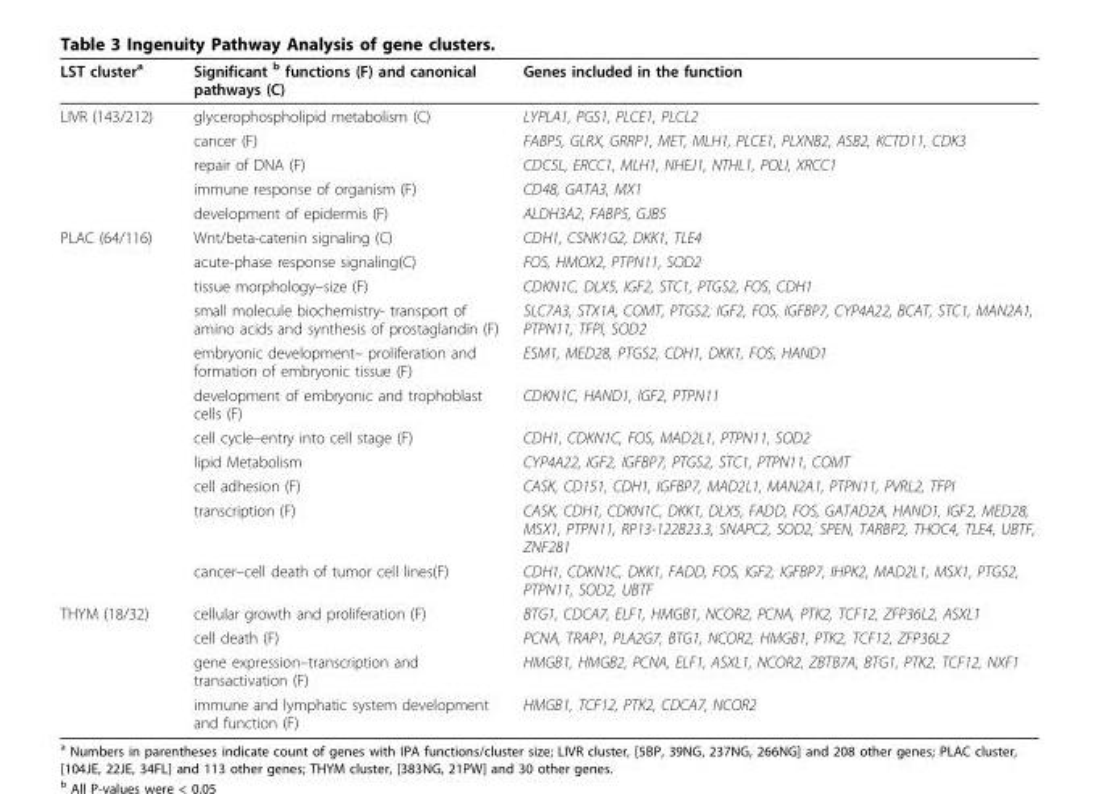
<table><thead><tr><td>LST cluster<sup>a</sup></td><td>Significant <sup>b</sup> functions (F) and canonical pathways (C)</td><td>Genes included in the function</td></tr></thead><tbody><tr><td rowspan="5">LIVR (143/212)</td><td>glycerophospholipid metabolism (C)</td><td>LYPLA1, PGS1, PLCE1, PLCL2</td></tr><tr><td>cancer (F)</td><td>FABP5, GLRX, GRRP1, MET, MLH1, PLCE1, PLXNB2, ASB2, KCTD11, CDK3</td></tr><tr><td>repair of DNA (F)</td><td>CDC5L, ERCC1, MLH1, NHEJ1, NTHL1, POLI, XRCC1</td></tr><tr><td>immune response of organism (F)</td><td>CD48, GATA3, MX1</td></tr><tr><td>development of epidermis (F)</td><td>ALDH3A2, FABP5, GJB5</td></tr><tr><td rowspan="11">PLAC (64/116)</td><td>Wnt/beta-catenin signaling (C)</td><td>CDH1, CSNK1G2, DKK1, TLE4</td></tr><tr><td>acute-phase response signaling(C)</td><td>FOS, HMOX2, PTPN11, SOD2</td></tr><tr><td>tissue morphology–size (F)</td><td>CDKN1C, DLX5, IGF2, STC1, PTGS2, FOS, CDH1</td></tr><tr><td>small molecule biochemistry- transport of amino acids and synthesis of prostaglandin (F)</td><td>SLC7A3, STX1A, COMT, PTGS2, IGF2, FOS, IGFBP7, CYP4A22, BCAT, STC1, MAN2A1, PTPN11, TFPI, SOD2</td></tr><tr><td>embryonic development– proliferation and formation of embryonic tissue (F)</td><td>ESM1, MED28, PTGS2, CDH1, DKK1, FOS, HAND1</td></tr><tr><td>development of embryonic and trophoblast cells (F)</td><td>CDKN1C, HAND1, IGF2, PTPN11</td></tr><tr><td>cell cycle–entry into cell stage (F)</td><td>CDH1, CDKN1C, FOS, MAD2L1, PTPN11, SOD2</td></tr><tr><td>lipid Metabolism</td><td>CYP4A22, IGF2, IGFBP7, PTGS2, STC1, PTPN11, COMT</td></tr><tr><td>cell adhesion (F)</td><td>CASK, CD151, CDH1, IGFBP7, MAD2L1, MAN2A1, PTPN11, PVRL2, TFPI</td></tr><tr><td>transcription (F)</td><td>CASK, CDH1, CDKN1C, DKK1, DLX5, FADD, FOS, GATAD2A, HAND1, IGF2, MED28, MSX1, PTPN11, RP13-122B23.3, SNAPC2, SOD2, SPEN, TARBP2, THOC4, TLE4, UBTF, ZNF281</td></tr><tr><td>cancer–cell death of tumor cell lines(F)</td><td>CDH1, CDKN1C, DKK1, FADD, FOS, IGF2, IGFBP7, IHPK2, MAD2L1, MSX1, PTGS2, PTPN11, SOD2, UBTF</td></tr><tr><td rowspan="4">THYM (18/32)</td><td>cellular growth and proliferation (F)</td><td>BTG1, CDCA7, ELF1, HMGB1, NCOR2, PCNA, PTK2, TCF12, ZFP36L2, ASXL1</td></tr><tr><td>cell death (F)</td><td>PCNA, TRAP1, PLA2G7, BTG1, NCOR2, HMGB1, PTK2, TCF12, ZFP36L2</td></tr><tr><td>gene expression–transcription and transactivation (F)</td><td>HMGB1, HMGB2, PCNA, ELF1, ASXL1, NCOR2, ZBTB7A, BTG1, PTK2, TCF12, NXF1</td></tr><tr><td>immune and lymphatic system development and function (F)</td><td>HMGB1, TCF12, PTK2, CDCA7, NCOR2</td></tr></tbody></table>